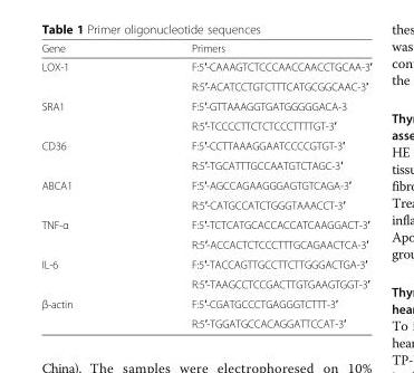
<table><thead><tr><td>Gene</td><td>Primers</td></tr></thead><tbody><tr><td rowspan="2">LOX-1</td><td>F:5′-CAAAGTCTCCCAACCAACCTGCAA-3′</td></tr><tr><td>R:5′-ACATCCTGTCTTTCATGCGGCAAC-3′</td></tr><tr><td rowspan="2">SRA1</td><td>F:5′-GTTAAAGGTGATGGGGGACA-3</td></tr><tr><td>R:5′-TCCCCTTCTCTCCCTTTTGT-3′</td></tr><tr><td rowspan="2">CD36</td><td>F:5′-CCTTAAAGGAATCCCCGTGT-3′</td></tr><tr><td>R:5′-TGCATTTGCCAATGTCTAGC-3′</td></tr><tr><td rowspan="2">ABCA1</td><td>F:5′-AGCCAGAAGGGAGTGTCAGA-3′</td></tr><tr><td>R:5′-CATGCCATCTGGGTAAACCT-3′</td></tr><tr><td rowspan="2">TNF-α</td><td>F:5′-TCTCATGCACCACCATCAAGGACT-3′</td></tr><tr><td>R:5′-ACCACTCTCCCTTTGCAGAACTCA-3′</td></tr><tr><td rowspan="2">IL-6</td><td>F:5′-TACCAGTTGCCTTCTTGGGACTGA-3′</td></tr><tr><td>R:5′-TAAGCCTCCGACTTGTGAAGTGGT-3′</td></tr><tr><td rowspan="2">β-actin</td><td>F:5′-CGATGCCCTGAGGGTCTTT-3′</td></tr><tr><td>R:5′-TGGATGCCACAGGATTCCAT-3′</td></tr></tbody></table>